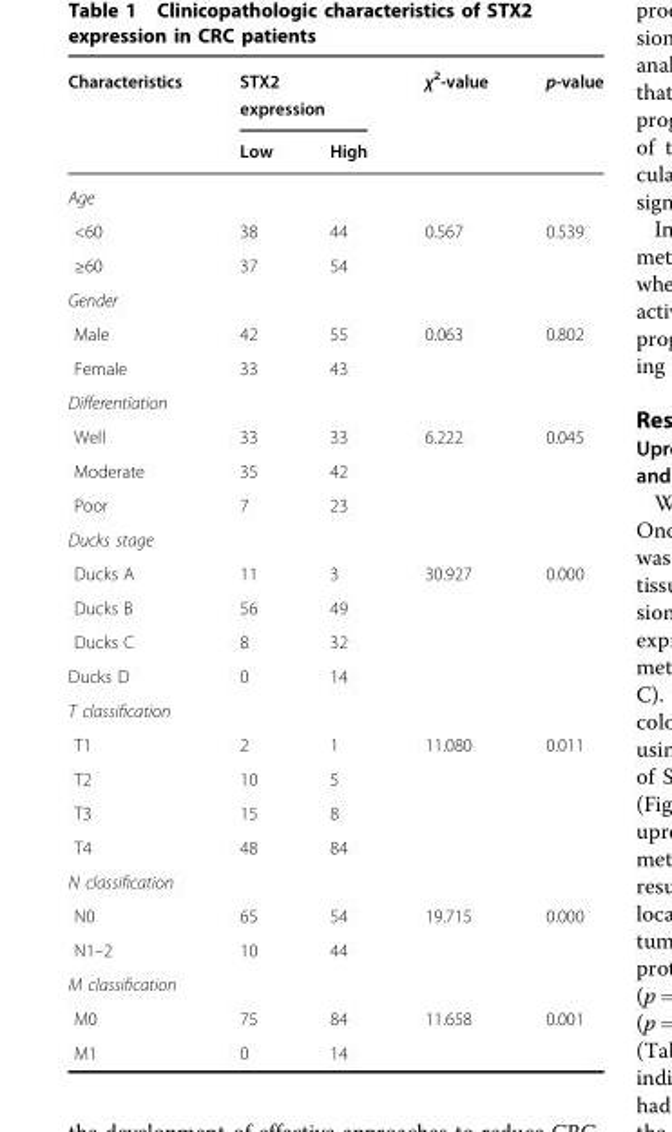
<table><thead><tr><td rowspan="2">Characteristics</td><td colspan="2">STX2 expression</td><td rowspan="2">χ<sup>2</sup>-value</td><td rowspan="2">p-value</td></tr><tr><td>Low</td><td>High</td></tr></thead><tbody><tr><td colspan="5">Age</td></tr><tr><td>&lt;60</td><td>38</td><td>44</td><td rowspan="2">0.567</td><td rowspan="2">0.539</td></tr><tr><td>≥60</td><td>37</td><td>54</td></tr><tr><td colspan="5">Gender</td></tr><tr><td>Male</td><td>42</td><td>55</td><td rowspan="2">0.063</td><td rowspan="2">0.802</td></tr><tr><td>Female</td><td>33</td><td>43</td></tr><tr><td colspan="5">Differentiation</td></tr><tr><td>Well</td><td>33</td><td>33</td><td rowspan="3">6.222</td><td rowspan="3">0.045</td></tr><tr><td>Moderate</td><td>35</td><td>42</td></tr><tr><td>Poor</td><td>7</td><td>23</td></tr><tr><td colspan="5">Ducks stage</td></tr><tr><td>Ducks A</td><td>11</td><td>3</td><td rowspan="4">30.927</td><td rowspan="4">0.000</td></tr><tr><td>Ducks B</td><td>56</td><td>49</td></tr><tr><td>Ducks C</td><td>8</td><td>32</td></tr><tr><td>Ducks D</td><td>0</td><td>14</td></tr><tr><td colspan="5">T classification</td></tr><tr><td>T1</td><td>2</td><td>1</td><td rowspan="4">11.080</td><td rowspan="4">0.011</td></tr><tr><td>T2</td><td>10</td><td>5</td></tr><tr><td>T3</td><td>15</td><td>8</td></tr><tr><td>T4</td><td>48</td><td>84</td></tr><tr><td colspan="5">N classification</td></tr><tr><td>N0</td><td>65</td><td>54</td><td rowspan="2">19.715</td><td rowspan="2">0.000</td></tr><tr><td>N1–2</td><td>10</td><td>44</td></tr><tr><td colspan="5">M classification</td></tr><tr><td>M0</td><td>75</td><td>84</td><td rowspan="2">11.658</td><td rowspan="2">0.001</td></tr><tr><td>M1</td><td>0</td><td>14</td></tr></tbody></table>